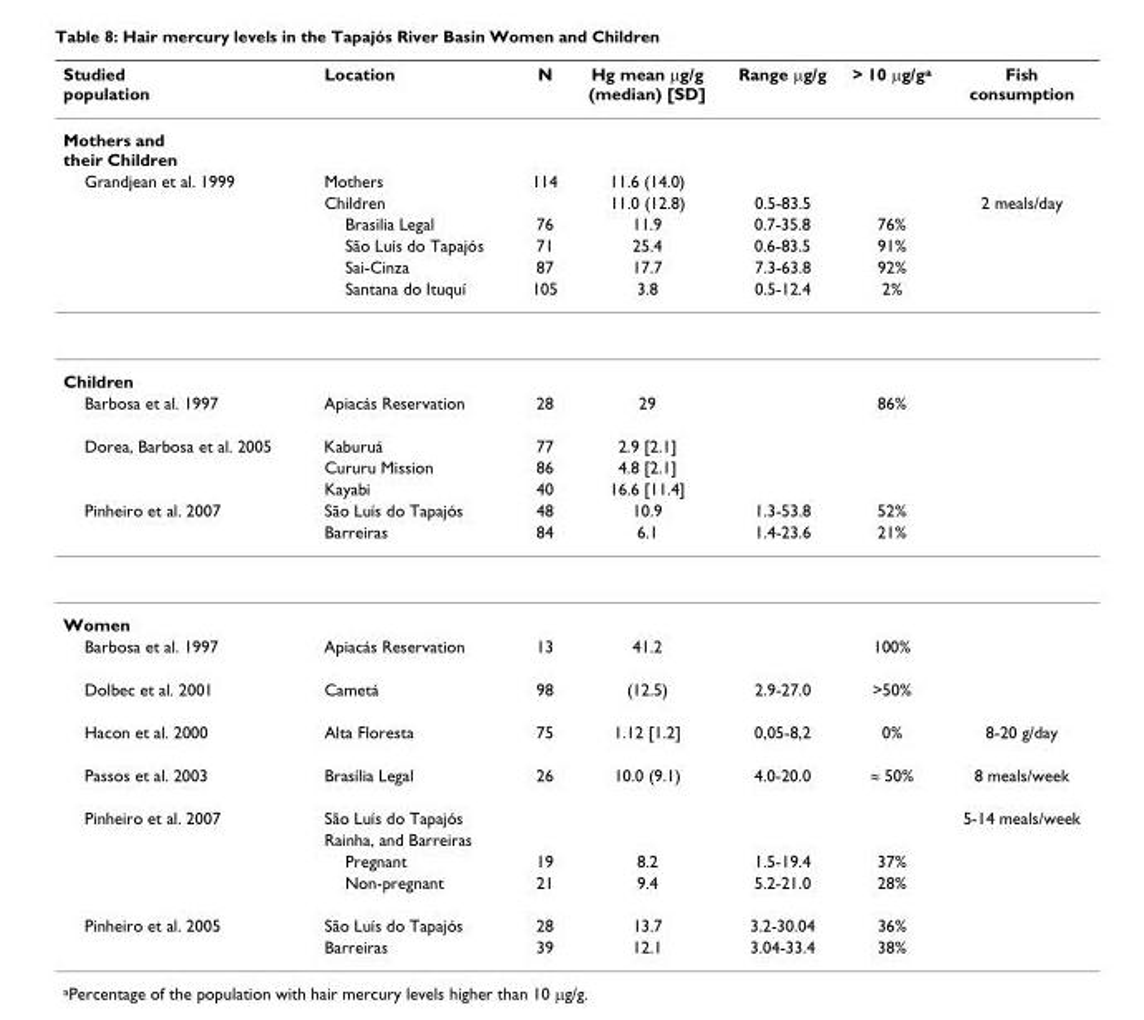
<table><thead><tr><td>Studied population</td><td>Location</td><td>N</td><td>Hg mean μg/g (median) [SD]</td><td>Range μg/g</td><td>&gt; 10 μg/ga</td><td>Fish consumption</td></tr></thead><tbody><tr><td colspan="7">Mothers and their Children</td></tr><tr><td rowspan="6">Grandjean et al. 1999</td><td>Mothers</td><td>114</td><td>11.6 (14.0)</td><td></td><td></td><td></td></tr><tr><td>Children</td><td></td><td>11.0 (12.8)</td><td>0.5-83.5</td><td></td><td>2 meals/day</td></tr><tr><td>Brasilia Legal</td><td>76</td><td>11.9</td><td>0.7-35.8</td><td>76%</td><td></td></tr><tr><td>São Luís do Tapajós</td><td>71</td><td>25.4</td><td>0.6-83.5</td><td>91%</td><td></td></tr><tr><td>Sai-Cinza</td><td>87</td><td>17.7</td><td>7.3-63.8</td><td>92%</td><td></td></tr><tr><td>Santana do Ituquí</td><td>105</td><td>3.8</td><td>0.5-12.4</td><td>2%</td><td></td></tr><tr><td colspan="7">Children</td></tr><tr><td>Barbosa et al. 1997</td><td>Apiacás Reservation</td><td>28</td><td>29</td><td></td><td>86%</td><td></td></tr><tr><td rowspan="3">Dorea, Barbosa et al. 2005</td><td>Kaburuá</td><td>77</td><td>2.9 [2.1]</td><td></td><td></td><td></td></tr><tr><td>Cururu Mission</td><td>86</td><td>4.8 [2.1]</td><td></td><td></td><td></td></tr><tr><td>Kayabi</td><td>40</td><td>16.6 [11.4]</td><td></td><td></td><td></td></tr><tr><td rowspan="2">Pinheiro et al. 2007</td><td>São Luís do Tapajós</td><td>48</td><td>10.9</td><td>1.3-53.8</td><td>52%</td><td></td></tr><tr><td>Barreiras</td><td>84</td><td>6.1</td><td>1.4-23.6</td><td>21%</td><td></td></tr><tr><td colspan="7">Women</td></tr><tr><td>Barbosa et al. 1997</td><td>Apiacás Reservation</td><td>13</td><td>41.2</td><td></td><td>100%</td><td></td></tr><tr><td>Dolbec et al. 2001</td><td>Cametá</td><td>98</td><td>(12.5)</td><td>2.9-27.0</td><td>&gt;50%</td><td></td></tr><tr><td>Hacon et al. 2000</td><td>Alta Floresta</td><td>75</td><td>1.12 [1.2]</td><td>0,05-8,2</td><td>0%</td><td>8-20 g/day</td></tr><tr><td>Passos et al. 2003</td><td>Brasília Legal</td><td>26</td><td>10.0 (9.1)</td><td>4.0-20.0</td><td>≈ 50%</td><td>8 meals/week</td></tr><tr><td rowspan="4">Pinheiro et al. 2007</td><td>São Luís do Tapajós</td><td></td><td></td><td></td><td></td><td>5-14 meals/week</td></tr><tr><td>Rainha, and Barreiras</td><td></td><td></td><td></td><td></td><td></td></tr><tr><td>Pregnant</td><td>19</td><td>8.2</td><td>1.5-19.4</td><td>37%</td><td></td></tr><tr><td>Non-pregnant</td><td>21</td><td>9.4</td><td>5.2-21.0</td><td>28%</td><td></td></tr><tr><td rowspan="2">Pinheiro et al. 2005</td><td>São Luís do Tapajós</td><td>28</td><td>13.7</td><td>3.2-30.04</td><td>36%</td><td></td></tr><tr><td>Barreiras</td><td>39</td><td>12.1</td><td>3.04-33.4</td><td>38%</td><td></td></tr></tbody></table>